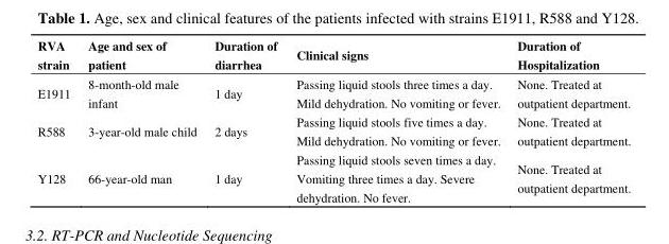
<table><thead><tr><td>RVA strain</td><td>Age and sex of patient</td><td>Duration of diarrhea</td><td>Clinical signs</td><td>Duration of Hospitalization</td></tr></thead><tbody><tr><td>E1911</td><td>8-month-old male infant</td><td>1 day</td><td>Passing liquid stools three times a day. Mild dehydration. No vomiting or fever.</td><td>None. Treated at outpatient department.</td></tr><tr><td>R588</td><td>3-year-old male child</td><td>2 days</td><td>Passing liquid stools five times a day. Mild dehydration. No vomiting or fever.</td><td>None. Treated at outpatient department.</td></tr><tr><td>Y128</td><td>66-year-old man</td><td>1 day</td><td>Passing liquid stools seven times a day. Vomiting three times a day. Severe dehydration. No fever.</td><td>None. Treated at outpatient department.</td></tr></tbody></table>